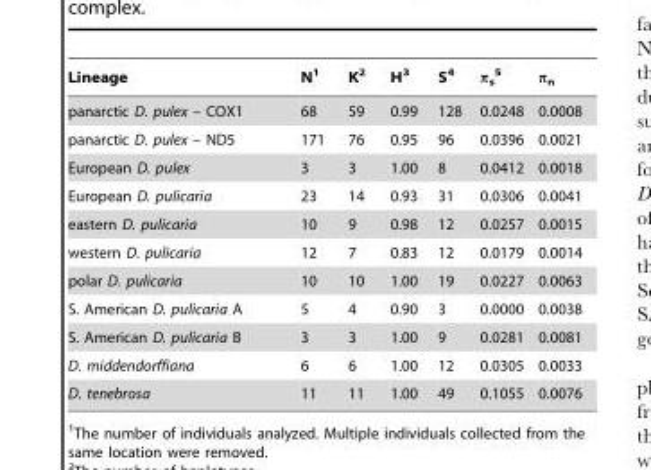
<table><thead><tr><td>Lineage</td><td>N<sup>1</sup></td><td>K<sup>2</sup></td><td>H<sup>3</sup></td><td>S<sup>4</sup></td><td>π<sub>s</sub> 5</td><td>π<sub>n</sub></td></tr></thead><tbody><tr><td>panarctic D. pulex – COX1</td><td>68</td><td>59</td><td>0.99</td><td>128</td><td>0.0248</td><td>0.0008</td></tr><tr><td>panarctic D. pulex – ND5</td><td>171</td><td>76</td><td>0.95</td><td>96</td><td>0.0396</td><td>0.0021</td></tr><tr><td>European D. pulex</td><td>3</td><td>3</td><td>1.00</td><td>8</td><td>0.0412</td><td>0.0018</td></tr><tr><td>European D. pulicaria</td><td>23</td><td>14</td><td>0.93</td><td>31</td><td>0.0306</td><td>0.0041</td></tr><tr><td>eastern D. pulicaria</td><td>10</td><td>9</td><td>0.98</td><td>12</td><td>0.0257</td><td>0.0015</td></tr><tr><td>western D. pulicaria</td><td>12</td><td>7</td><td>0.83</td><td>12</td><td>0.0179</td><td>0.0014</td></tr><tr><td>polar D. pulicaria</td><td>10</td><td>10</td><td>1.00</td><td>19</td><td>0.0227</td><td>0.0063</td></tr><tr><td>S. American D. pulicaria A</td><td>5</td><td>4</td><td>0.90</td><td>3</td><td>0.0000</td><td>0.0038</td></tr><tr><td>S. American D. pulicaria B</td><td>3</td><td>3</td><td>1.00</td><td>9</td><td>0.0281</td><td>0.0081</td></tr><tr><td>D. middendorffiana</td><td>6</td><td>6</td><td>1.00</td><td>12</td><td>0.0305</td><td>0.0033</td></tr><tr><td>D. tenebrosa</td><td>11</td><td>11</td><td>1.00</td><td>49</td><td>0.1055</td><td>0.0076</td></tr></tbody></table>